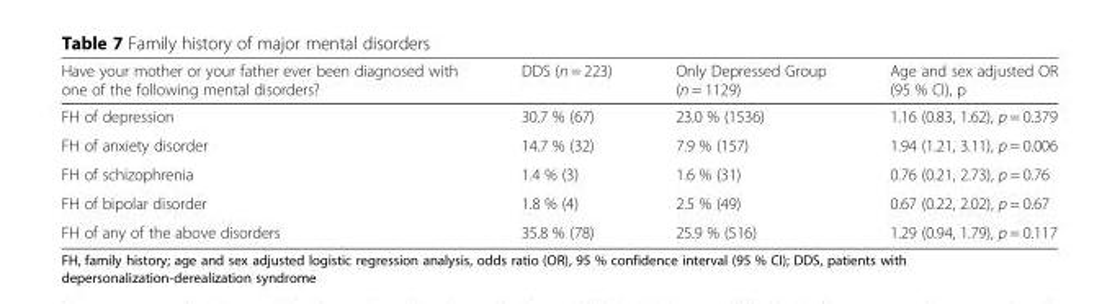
<table><thead><tr><td>Have your mother or your father ever been diagnosed with one of the following mental disorders?</td><td>DDS (n = 223)</td><td>Only Depressed Group (n = 1129)</td><td>Age and sex adjusted OR (95 % CI), p</td></tr></thead><tbody><tr><td>FH of depression</td><td>30.7 % (67)</td><td>23.0 % (1536)</td><td>1.16 (0.83, 1.62), p = 0.379</td></tr><tr><td>FH of anxiety disorder</td><td>14.7 % (32)</td><td>7.9 % (157)</td><td>1.94 (1.21, 3.11), p = 0.006</td></tr><tr><td>FH of schizophrenia</td><td>1.4 % (3)</td><td>1.6 % (31)</td><td>0.76 (0.21, 2.73), p = 0.76</td></tr><tr><td>FH of bipolar disorder</td><td>1.8 % (4)</td><td>2.5 % (49)</td><td>0.67 (0.22, 2.02), p = 0.67</td></tr><tr><td>FH of any of the above disorders</td><td>35.8 % (78)</td><td>25.9 % (516)</td><td>1.29 (0.94, 1.79), p = 0.117</td></tr></tbody></table>